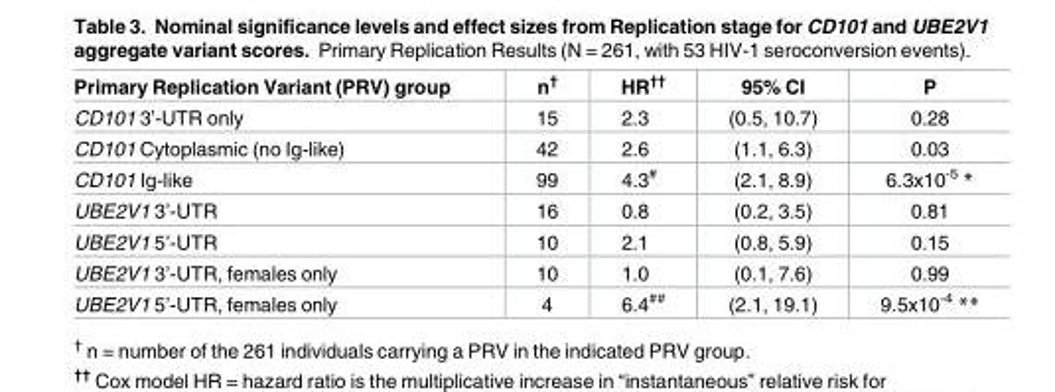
<table><thead><tr><td>Primary Replication Variant (PRV) group</td><td>n<sup>†</sup></td><td>HR<sup>††</sup></td><td>95% CI</td><td>P</td></tr></thead><tbody><tr><td>CD101 3’-UTR only</td><td>15</td><td>2.3</td><td>(0.5, 10.7)</td><td>0.28</td></tr><tr><td>CD101 Cytoplasmic (no Ig-like)</td><td>42</td><td>2.6</td><td>(1.1, 6.3)</td><td>0.03</td></tr><tr><td>CD101 Ig-like</td><td>99</td><td>4.3<sup>#</sup></td><td>(2.1, 8.9)</td><td>6.3x10<sup>-5</sup> *</td></tr><tr><td>UBE2V1 3’-UTR</td><td>16</td><td>0.8</td><td>(0.2, 3.5)</td><td>0.81</td></tr><tr><td>UBE2V1 5’-UTR</td><td>10</td><td>2.1</td><td>(0.8, 5.9)</td><td>0.15</td></tr><tr><td>UBE2V1 3’-UTR, females only</td><td>10</td><td>1.0</td><td>(0.1, 7.6)</td><td>0.99</td></tr><tr><td>UBE2V1 5’-UTR, females only</td><td>4</td><td>6.4<sup>##</sup></td><td>(2.1, 19.1)</td><td>9.5x10<sup>-4</sup> **</td></tr></tbody></table>